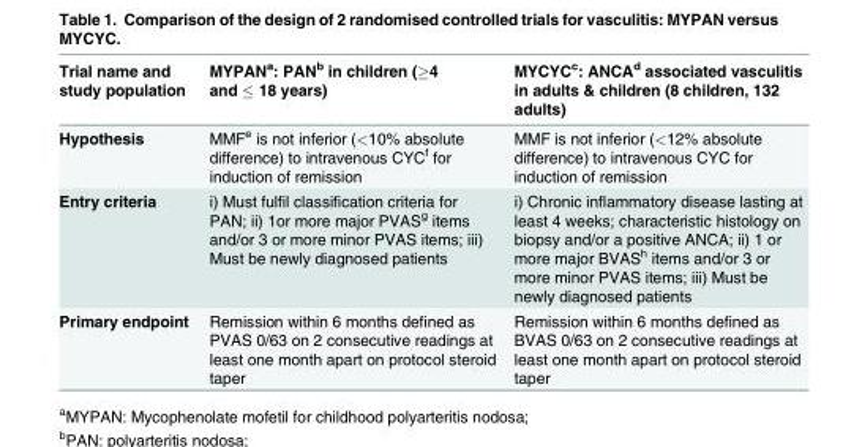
<table><thead><tr><td>Trial name and study population</td><td>MYPAN<sup>a</sup>: PAN<sup>b</sup> in children (≥4 and ≤ 18 years)</td><td>MYCYC<sup>c</sup>: ANCA<sup>d</sup> associated vasculitis in adults &amp; children (8 children, 132 adults)</td></tr></thead><tbody><tr><td>Hypothesis</td><td>MMF<sup>e</sup> is not inferior (&lt;10% absolute difference) to intravenous CYC<sup>f</sup> for induction of remission</td><td>MMF is not inferior (&lt;12% absolute difference) to intravenous CYC for induction of remission</td></tr><tr><td>Entry criteria</td><td>i) Must fulfil classification criteria for PAN; ii) 1or more major PVAS<sup>g</sup> items and/or 3 or more minor PVAS items; iii) Must be newly diagnosed patients</td><td>i) Chronic inflammatory disease lasting at least 4 weeks; characteristic histology on biopsy and/or a positive ANCA; ii) 1 or more major BVAS<sup>h</sup> items and/or 3 or more minor PVAS items; iii) Must be newly diagnosed patients</td></tr><tr><td>Primary endpoint</td><td>Remission within 6 months defined as PVAS 0/63 on 2 consecutive readings at least one month apart on protocol steroid taper</td><td>Remission within 6 months defined as BVAS 0/63 on 2 consecutive readings at least one month apart on protocol steroid taper</td></tr></tbody></table>